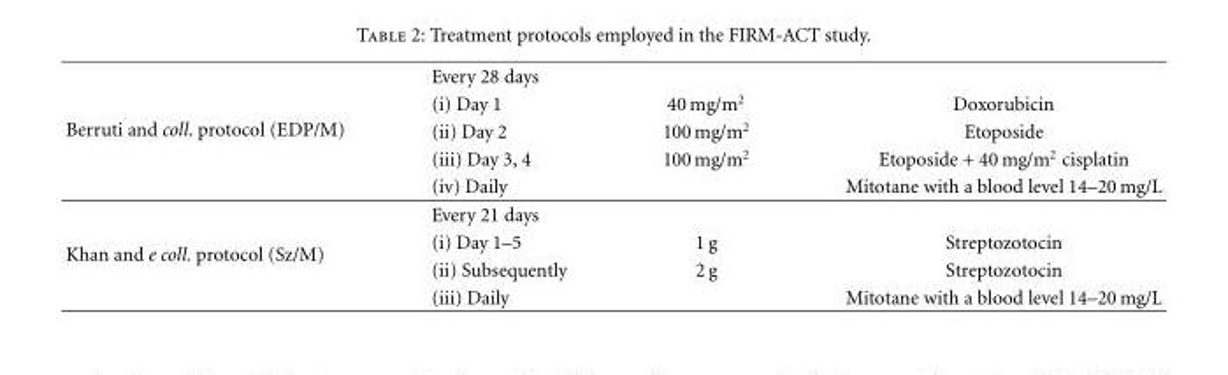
<table><tbody><tr><td rowspan="5">Berruti and coll. protocol (EDP/M)</td><td>Every 28 days</td><td></td><td></td></tr><tr><td>(i) Day 1</td><td>40 mg/m<sup>2</sup></td><td>Doxorubicin</td></tr><tr><td>(ii) Day 2</td><td>100 mg/m<sup>2</sup></td><td>Etoposide</td></tr><tr><td>(iii) Day 3, 4</td><td>100 mg/m<sup>2</sup></td><td>Etoposide + 40 mg/m<sup>2</sup> cisplatin</td></tr><tr><td>(iv) Daily</td><td></td><td>Mitotane with a blood level 14–20 mg/L</td></tr><tr><td rowspan="4">Khan and e coll. protocol (Sz/M)</td><td>Every 21 days</td><td></td><td></td></tr><tr><td>(i) Day 1–5</td><td>1 g</td><td>Streptozotocin</td></tr><tr><td>(ii) Subsequently</td><td>2 g</td><td>Streptozotocin</td></tr><tr><td>(iii) Daily</td><td></td><td>Mitotane with a blood level 14–20 mg/L</td></tr></tbody></table>